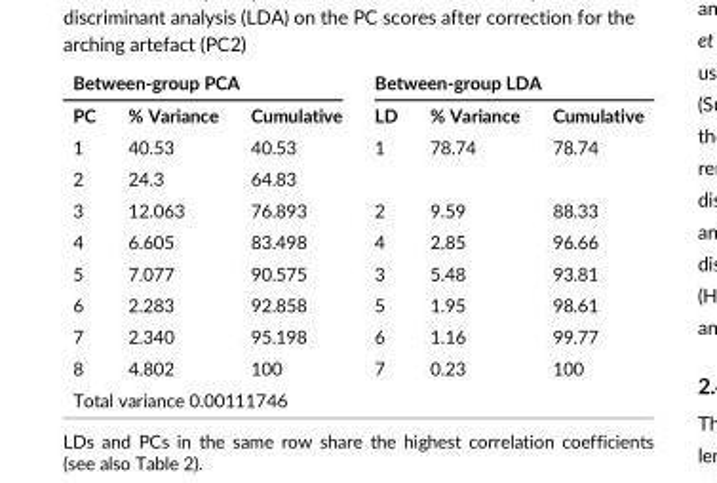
<table><thead><tr><td colspan="3">Between-group PCA</td><td colspan="3">Between-group LDA</td></tr><tr><td>PC</td><td>% Variance</td><td>Cumulative</td><td>LD</td><td>% Variance</td><td>Cumulative</td></tr></thead><tbody><tr><td>1</td><td>40.53</td><td>40.53</td><td>1</td><td>78.74</td><td>78.74</td></tr><tr><td>2</td><td>24.3</td><td>64.83</td><td></td><td></td><td></td></tr><tr><td>3</td><td>12.063</td><td>76.893</td><td>2</td><td>9.59</td><td>88.33</td></tr><tr><td>4</td><td>6.605</td><td>83.498</td><td>4</td><td>2.85</td><td>96.66</td></tr><tr><td>5</td><td>7.077</td><td>90.575</td><td>3</td><td>5.48</td><td>93.81</td></tr><tr><td>6</td><td>2.283</td><td>92.858</td><td>5</td><td>1.95</td><td>98.61</td></tr><tr><td>7</td><td>2.340</td><td>95.198</td><td>6</td><td>1.16</td><td>99.77</td></tr><tr><td>8</td><td>4.802</td><td>100</td><td>7</td><td>0.23</td><td>100</td></tr><tr><td colspan="3">Total variance 0.00111746</td><td></td><td></td><td></td></tr></tbody></table>